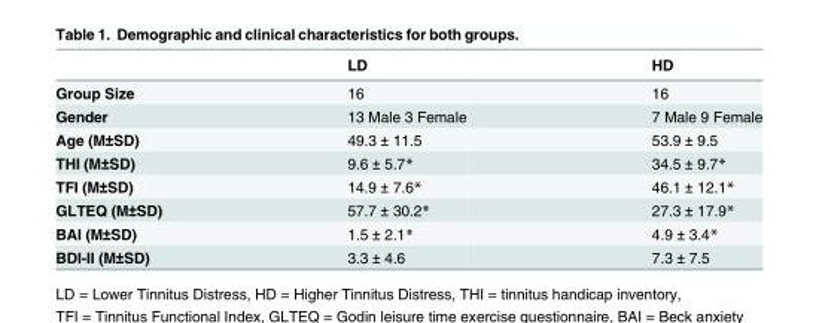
<table><thead><tr><td></td><td>LD</td><td>HD</td></tr></thead><tbody><tr><td>Group Size</td><td>16</td><td>16</td></tr><tr><td>Gender</td><td>13 Male 3 Female</td><td>7 Male 9 Female</td></tr><tr><td>Age (M±SD)</td><td>49.3 ± 11.5</td><td>53.9 ± 9.5</td></tr><tr><td>THI (M±SD)</td><td>9.6 ± 5.7*</td><td>34.5 ± 9.7*</td></tr><tr><td>TFI (M±SD)</td><td>14.9 ± 7.6*</td><td>46.1 ± 12.1*</td></tr><tr><td>GLTEQ (M±SD)</td><td>57.7 ± 30.2*</td><td>27.3 ± 17.9*</td></tr><tr><td>BAI (M±SD)</td><td>1.5 ± 2.1*</td><td>4.9 ± 3.4*</td></tr><tr><td>BDI-II (M±SD)</td><td>3.3 ± 4.6</td><td>7.3 ± 7.5</td></tr></tbody></table>